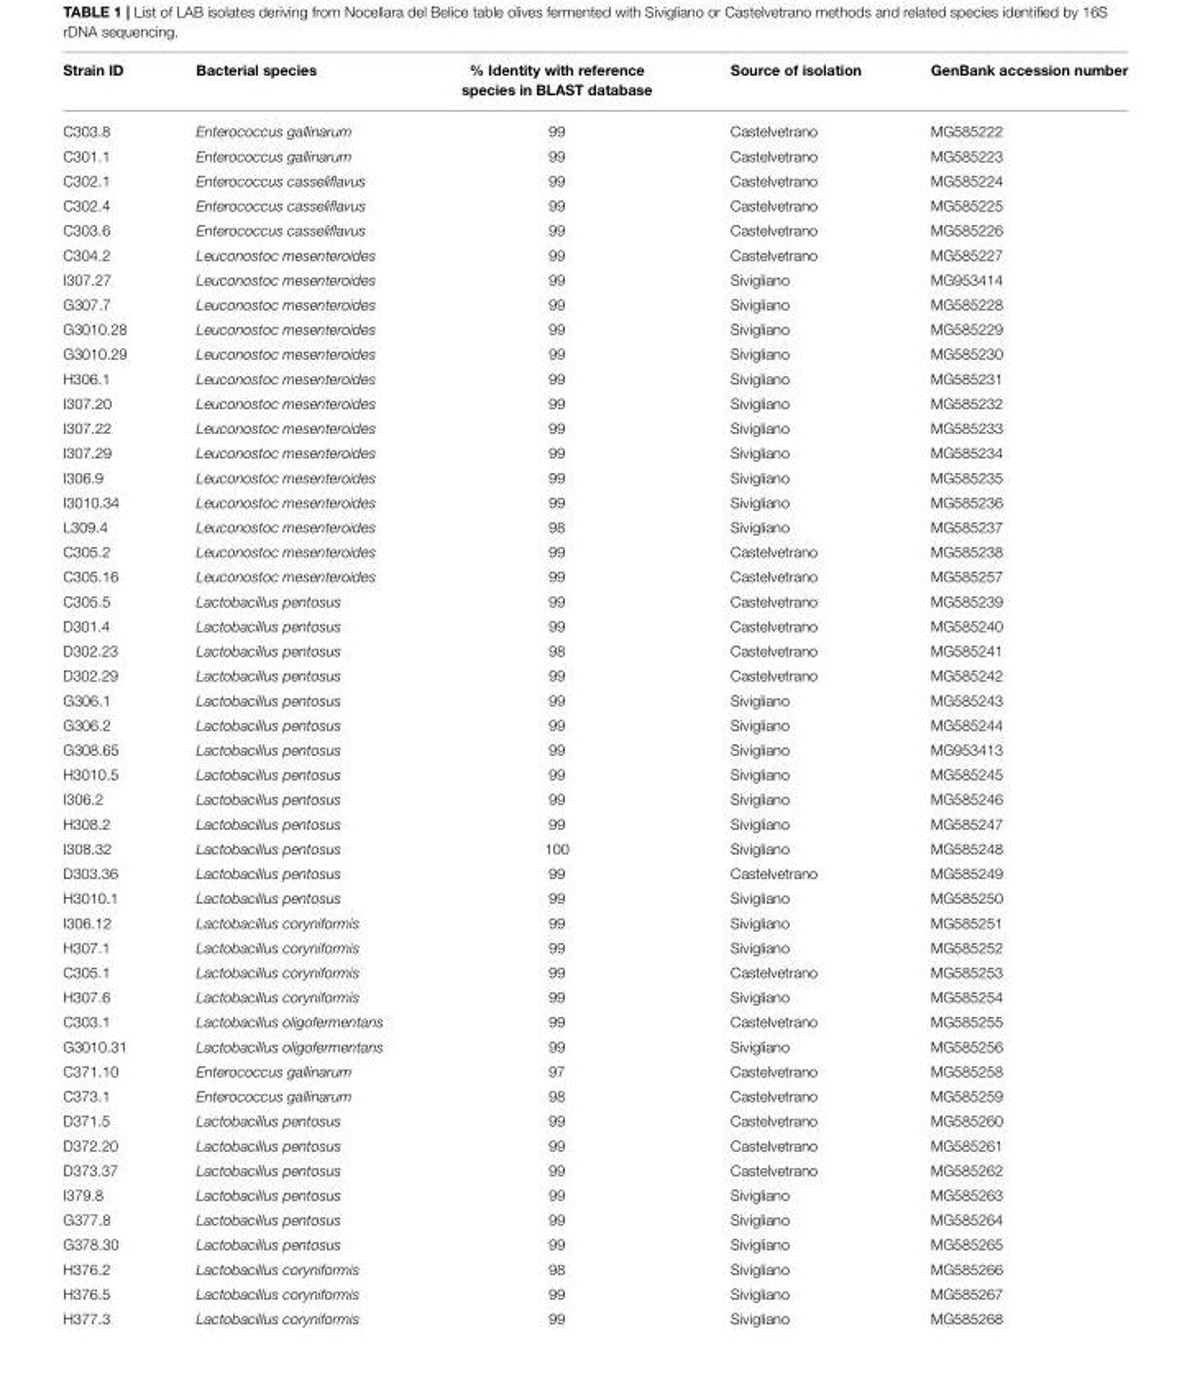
<table><thead><tr><td>Strain ID</td><td>Bacterial species</td><td>% Identity with reference species in BLAST database</td><td>Source of isolation</td><td>GenBank accession number</td></tr></thead><tbody><tr><td>C303.8</td><td>Enterococcus gallinarum</td><td>99</td><td>Castelvetrano</td><td>MG585222</td></tr><tr><td>C301.1</td><td>Enterococcus gallinarum</td><td>99</td><td>Castelvetrano</td><td>MG585223</td></tr><tr><td>C302.1</td><td>Enterococcus casseliflavus</td><td>99</td><td>Castelvetrano</td><td>MG585224</td></tr><tr><td>C302.4</td><td>Enterococcus casseliflavus</td><td>99</td><td>Castelvetrano</td><td>MG585225</td></tr><tr><td>C303.6</td><td>Enterococcus casseliflavus</td><td>99</td><td>Castelvetrano</td><td>MG585226</td></tr><tr><td>C304.2</td><td>Leuconostoc mesenteroides</td><td>99</td><td>Castelvetrano</td><td>MG585227</td></tr><tr><td>I307.27</td><td>Leuconostoc mesenteroides</td><td>99</td><td>Sivigliano</td><td>MG953414</td></tr><tr><td>G307.7</td><td>Leuconostoc mesenteroides</td><td>99</td><td>Sivigliano</td><td>MG585228</td></tr><tr><td>G3010.28</td><td>Leuconostoc mesenteroides</td><td>99</td><td>Sivigliano</td><td>MG585229</td></tr><tr><td>G3010.29</td><td>Leuconostoc mesenteroides</td><td>99</td><td>Sivigliano</td><td>MG585230</td></tr><tr><td>H306.1</td><td>Leuconostoc mesenteroides</td><td>99</td><td>Sivigliano</td><td>MG585231</td></tr><tr><td>I307.20</td><td>Leuconostoc mesenteroides</td><td>99</td><td>Sivigliano</td><td>MG585232</td></tr><tr><td>I307.22</td><td>Leuconostoc mesenteroides</td><td>99</td><td>Sivigliano</td><td>MG585233</td></tr><tr><td>I307.29</td><td>Leuconostoc mesenteroides</td><td>99</td><td>Sivigliano</td><td>MG585234</td></tr><tr><td>I306.9</td><td>Leuconostoc mesenteroides</td><td>99</td><td>Sivigliano</td><td>MG585235</td></tr><tr><td>I3010.34</td><td>Leuconostoc mesenteroides</td><td>99</td><td>Sivigliano</td><td>MG585236</td></tr><tr><td>L309.4</td><td>Leuconostoc mesenteroides</td><td>98</td><td>Sivigliano</td><td>MG585237</td></tr><tr><td>C305.2</td><td>Leuconostoc mesenteroides</td><td>99</td><td>Castelvetrano</td><td>MG585238</td></tr><tr><td>C305.16</td><td>Leuconostoc mesenteroides</td><td>99</td><td>Castelvetrano</td><td>MG585257</td></tr><tr><td>C305.5</td><td>Lactobacillus pentosus</td><td>99</td><td>Castelvetrano</td><td>MG585239</td></tr><tr><td>D301.4</td><td>Lactobacillus pentosus</td><td>99</td><td>Castelvetrano</td><td>MG585240</td></tr><tr><td>D302.23</td><td>Lactobacillus pentosus</td><td>98</td><td>Castelvetrano</td><td>MG585241</td></tr><tr><td>D302.29</td><td>Lactobacillus pentosus</td><td>99</td><td>Castelvetrano</td><td>MG585242</td></tr><tr><td>G306.1</td><td>Lactobacillus pentosus</td><td>99</td><td>Sivigliano</td><td>MG585243</td></tr><tr><td>G306.2</td><td>Lactobacillus pentosus</td><td>99</td><td>Sivigliano</td><td>MG585244</td></tr><tr><td>G308.65</td><td>Lactobacillus pentosus</td><td>99</td><td>Sivigliano</td><td>MG953413</td></tr><tr><td>H3010.5</td><td>Lactobacillus pentosus</td><td>99</td><td>Sivigliano</td><td>MG585245</td></tr><tr><td>I306.2</td><td>Lactobacillus pentosus</td><td>99</td><td>Sivigliano</td><td>MG585246</td></tr><tr><td>H308.2</td><td>Lactobacillus pentosus</td><td>99</td><td>Sivigliano</td><td>MG585247</td></tr><tr><td>I308.32</td><td>Lactobacillus pentosus</td><td>100</td><td>Sivigliano</td><td>MG585248</td></tr><tr><td>D303.36</td><td>Lactobacillus pentosus</td><td>99</td><td>Castelvetrano</td><td>MG585249</td></tr><tr><td>H3010.1</td><td>Lactobacillus pentosus</td><td>99</td><td>Sivigliano</td><td>MG585250</td></tr><tr><td>I306.12</td><td>Lactobacillus coryniformis</td><td>99</td><td>Sivigliano</td><td>MG585251</td></tr><tr><td>H307.1</td><td>Lactobacillus coryniformis</td><td>99</td><td>Sivigliano</td><td>MG585252</td></tr><tr><td>C305.1</td><td>Lactobacillus coryniformis</td><td>99</td><td>Castelvetrano</td><td>MG585253</td></tr><tr><td>H307.6</td><td>Lactobacillus coryniformis</td><td>99</td><td>Sivigliano</td><td>MG585254</td></tr><tr><td>C303.1</td><td>Lactobacillus oligofermentans</td><td>99</td><td>Castelvetrano</td><td>MG585255</td></tr><tr><td>G3010.31</td><td>Lactobacillus oligofermentans</td><td>99</td><td>Sivigliano</td><td>MG585256</td></tr><tr><td>C371.10</td><td>Enterococcus gallinarum</td><td>97</td><td>Castelvetrano</td><td>MG585258</td></tr><tr><td>C373.1</td><td>Enterococcus gallinarum</td><td>98</td><td>Castelvetrano</td><td>MG585259</td></tr><tr><td>D371.5</td><td>Lactobacillus pentosus</td><td>99</td><td>Castelvetrano</td><td>MG585260</td></tr><tr><td>D372.20</td><td>Lactobacillus pentosus</td><td>99</td><td>Castelvetrano</td><td>MG585261</td></tr><tr><td>D373.37</td><td>Lactobacillus pentosus</td><td>99</td><td>Castelvetrano</td><td>MG585262</td></tr><tr><td>I379.8</td><td>Lactobacillus pentosus</td><td>99</td><td>Sivigliano</td><td>MG585263</td></tr><tr><td>G377.8</td><td>Lactobacillus pentosus</td><td>99</td><td>Sivigliano</td><td>MG585264</td></tr><tr><td>G378.30</td><td>Lactobacillus pentosus</td><td>99</td><td>Sivigliano</td><td>MG585265</td></tr><tr><td>H376.2</td><td>Lactobacillus coryniformis</td><td>98</td><td>Sivigliano</td><td>MG585266</td></tr><tr><td>H376.5</td><td>Lactobacillus coryniformis</td><td>99</td><td>Sivigliano</td><td>MG585267</td></tr><tr><td>H377.3</td><td>Lactobacillus coryniformis</td><td>99</td><td>Sivigliano</td><td>MG585268</td></tr></tbody></table>